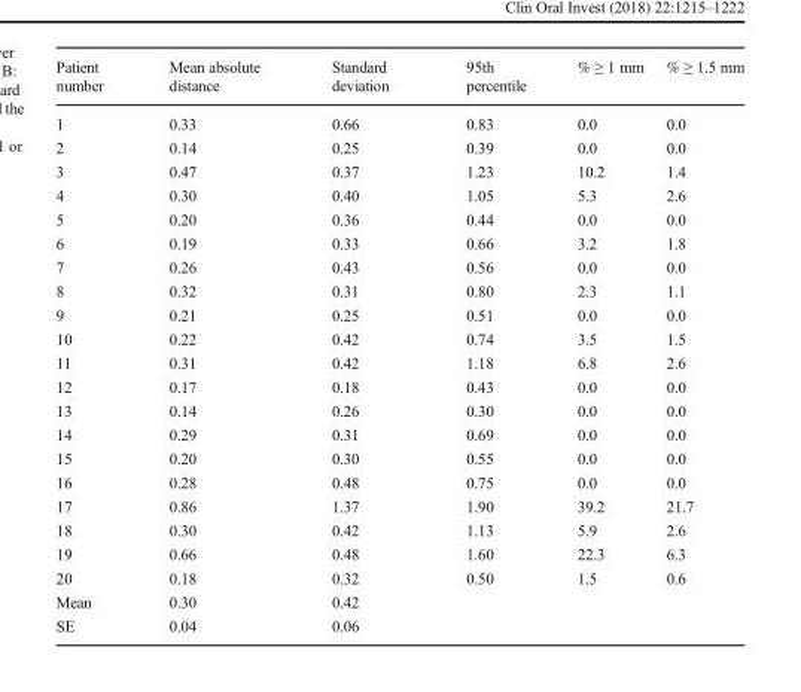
<table><thead><tr><td>Patient number</td><td>Mean absolute distance</td><td>Standard deviation</td><td>95th percentile</td><td>% ≥ 1 mm</td><td>% ≥ 1.5 mm</td></tr></thead><tbody><tr><td>1</td><td>0.33</td><td>0.66</td><td>0.83</td><td>0.0</td><td>0.0</td></tr><tr><td>2</td><td>0.14</td><td>0.25</td><td>0.39</td><td>0.0</td><td>0.0</td></tr><tr><td>3</td><td>0.47</td><td>0.37</td><td>1.23</td><td>10.2</td><td>1.4</td></tr><tr><td>4</td><td>0.30</td><td>0.40</td><td>1.05</td><td>5.3</td><td>2.6</td></tr><tr><td>5</td><td>0.20</td><td>0.36</td><td>0.44</td><td>0.0</td><td>0.0</td></tr><tr><td>6</td><td>0.19</td><td>0.33</td><td>0.66</td><td>3.2</td><td>1.8</td></tr><tr><td>7</td><td>0.26</td><td>0.43</td><td>0.56</td><td>0.0</td><td>0.0</td></tr><tr><td>8</td><td>0.32</td><td>0.31</td><td>0.80</td><td>2.3</td><td>1.1</td></tr><tr><td>9</td><td>0.21</td><td>0.25</td><td>0.51</td><td>0.0</td><td>0.0</td></tr><tr><td>10</td><td>0.22</td><td>0.42</td><td>0.74</td><td>3.5</td><td>1.5</td></tr><tr><td>11</td><td>0.31</td><td>0.42</td><td>1.18</td><td>6.8</td><td>2.6</td></tr><tr><td>12</td><td>0.17</td><td>0.18</td><td>0.43</td><td>0.0</td><td>0.0</td></tr><tr><td>13</td><td>0.14</td><td>0.26</td><td>0.30</td><td>0.0</td><td>0.0</td></tr><tr><td>14</td><td>0.29</td><td>0.31</td><td>0.69</td><td>0.0</td><td>0.0</td></tr><tr><td>15</td><td>0.20</td><td>0.30</td><td>0.55</td><td>0.0</td><td>0.0</td></tr><tr><td>16</td><td>0.28</td><td>0.48</td><td>0.75</td><td>0.0</td><td>0.0</td></tr><tr><td>17</td><td>0.86</td><td>1.37</td><td>1.90</td><td>39.2</td><td>21.7</td></tr><tr><td>18</td><td>0.30</td><td>0.42</td><td>1.13</td><td>5.9</td><td>2.6</td></tr><tr><td>19</td><td>0.66</td><td>0.48</td><td>1.60</td><td>22.3</td><td>6.3</td></tr><tr><td>20</td><td>0.18</td><td>0.32</td><td>0.50</td><td>1.5</td><td>0.6</td></tr><tr><td>Mean</td><td>0.30</td><td>0.42</td><td></td><td></td><td></td></tr><tr><td>SE</td><td>0.04</td><td>0.06</td><td></td><td></td><td></td></tr></tbody></table>